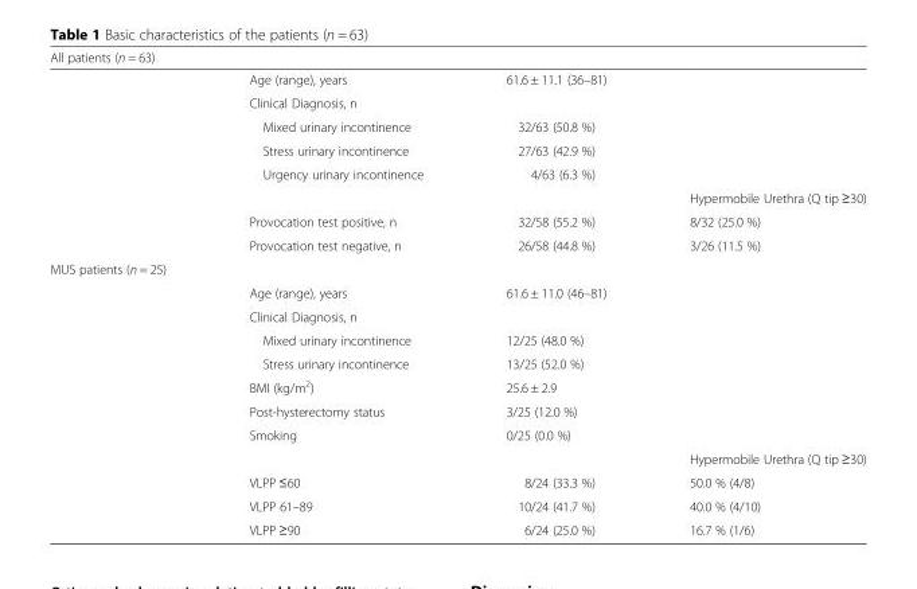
<table><thead><tr><td>All patients (n = 63)</td><td></td><td></td><td></td></tr></thead><tbody><tr><td></td><td>Age (range), years</td><td>61.6 ± 11.1 (36–81)</td><td></td></tr><tr><td></td><td>Clinical Diagnosis, n</td><td></td><td></td></tr><tr><td></td><td>Mixed urinary incontinence</td><td>32/63 (50.8 %)</td><td></td></tr><tr><td></td><td>Stress urinary incontinence</td><td>27/63 (42.9 %)</td><td></td></tr><tr><td></td><td>Urgency urinary incontinence</td><td>4/63 (6.3 %)</td><td></td></tr><tr><td></td><td></td><td></td><td>Hypermobile Urethra (Q tip ≥30)</td></tr><tr><td></td><td>Provocation test positive, n</td><td>32/58 (55.2 %)</td><td>8/32 (25.0 %)</td></tr><tr><td></td><td>Provocation test negative, n</td><td>26/58 (44.8 %)</td><td>3/26 (11.5 %)</td></tr><tr><td colspan="4">MUS patients (n = 25)</td></tr><tr><td></td><td>Age (range), years</td><td>61.6 ± 11.0 (46–81)</td><td></td></tr><tr><td></td><td>Clinical Diagnosis, n</td><td></td><td></td></tr><tr><td></td><td>Mixed urinary incontinence</td><td>12/25 (48.0 %)</td><td></td></tr><tr><td></td><td>Stress urinary incontinence</td><td>13/25 (52.0 %)</td><td></td></tr><tr><td></td><td>BMI (kg/m<sup>2</sup>)</td><td>25.6 ± 2.9</td><td></td></tr><tr><td></td><td>Post-hysterectomy status</td><td>3/25 (12.0 %)</td><td></td></tr><tr><td></td><td>Smoking</td><td>0/25 (0.0 %)</td><td></td></tr><tr><td></td><td></td><td></td><td>Hypermobile Urethra (Q tip ≥30)</td></tr><tr><td></td><td>VLPP ≤60</td><td>8/24 (33.3 %)</td><td>50.0 % (4/8)</td></tr><tr><td></td><td>VLPP 61–89</td><td>10/24 (41.7 %)</td><td>40.0 % (4/10)</td></tr><tr><td></td><td>VLPP ≥90</td><td>6/24 (25.0 %)</td><td>16.7 % (1/6)</td></tr></tbody></table>